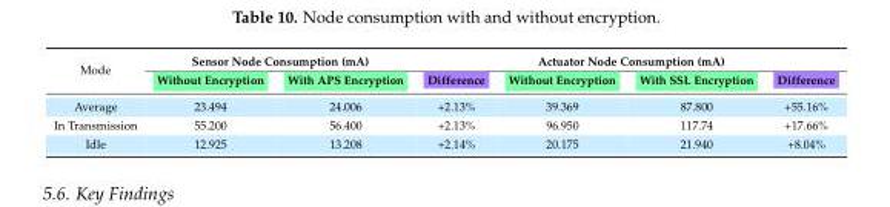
<table><thead><tr><td rowspan="2">Mode</td><td colspan="2">Sensor Node Consumption (mA)</td><td rowspan="2">Difference</td><td colspan="2">Actuator Node Consumption (mA)</td><td rowspan="2">Difference</td></tr><tr><td>Without Encryption</td><td>With APS Encryption</td><td>Without Encryption</td><td>With SSL Encryption</td></tr></thead><tbody><tr><td>Average</td><td>23.494</td><td>24.006</td><td>+2.13%</td><td>39.369</td><td>87.800</td><td>+55.16%</td></tr><tr><td>In Transmission</td><td>55.200</td><td>56.400</td><td>+2.13%</td><td>96.950</td><td>117.74</td><td>+17.66%</td></tr><tr><td>Idle</td><td>12.925</td><td>13.208</td><td>+2.14%</td><td>20.175</td><td>21.940</td><td>+8.04%</td></tr></tbody></table>